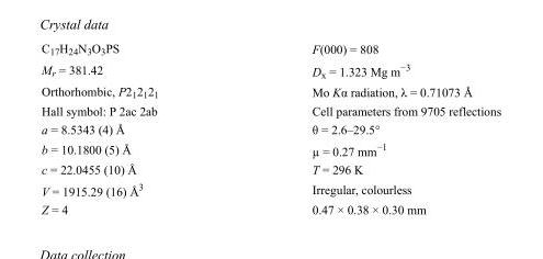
<table><tbody><tr><td>C<sub>17</sub>H<sub>24</sub>N<sub>3</sub>O<sub>3</sub>PS</td><td>F(000) = 808</td></tr><tr><td>M<sub>r</sub> = 381.42</td><td>D<sub>x</sub> = 1.323 Mg m<sup>−3</sup></td></tr><tr><td>Orthorhombic, P2<sub>1</sub>2<sub>1</sub>2<sub>1</sub></td><td>Mo Kα radiation, λ = 0.71073 Å</td></tr><tr><td>Hall symbol: P 2ac 2ab</td><td>Cell parameters from 9705 reflections</td></tr><tr><td>a = 8.5343 (4) Å</td><td>θ = 2.6–29.5°</td></tr><tr><td>b = 10.1800 (5) Å</td><td>µ = 0.27 mm<sup>−1</sup></td></tr><tr><td>c = 22.0455 (10) Å</td><td>T = 296 K</td></tr><tr><td>V = 1915.29 (16) Å<sup>3</sup></td><td>Irregular, colourless</td></tr><tr><td>Z = 4</td><td>0.47 × 0.38 × 0.30 mm</td></tr></tbody></table>